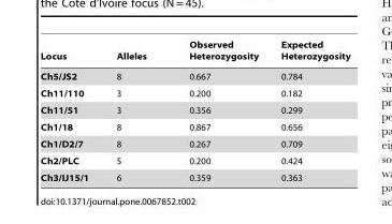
<table><thead><tr><td>Locus</td><td>Alleles</td><td>Observed Heterozygosity</td><td>Expected Heterozygosity</td></tr></thead><tbody><tr><td>Ch5/JS2</td><td>8</td><td>0.667</td><td>0.784</td></tr><tr><td>Ch11/110</td><td>3</td><td>0.200</td><td>0.182</td></tr><tr><td>Ch11/51</td><td>3</td><td>0.356</td><td>0.299</td></tr><tr><td>Ch1/18</td><td>8</td><td>0.867</td><td>0.656</td></tr><tr><td>Ch1/D2/7</td><td>8</td><td>0.267</td><td>0.709</td></tr><tr><td>Ch2/PLC</td><td>5</td><td>0.200</td><td>0.424</td></tr><tr><td>Ch3/IJ15/1</td><td>6</td><td>0.359</td><td>0.363</td></tr></tbody></table>